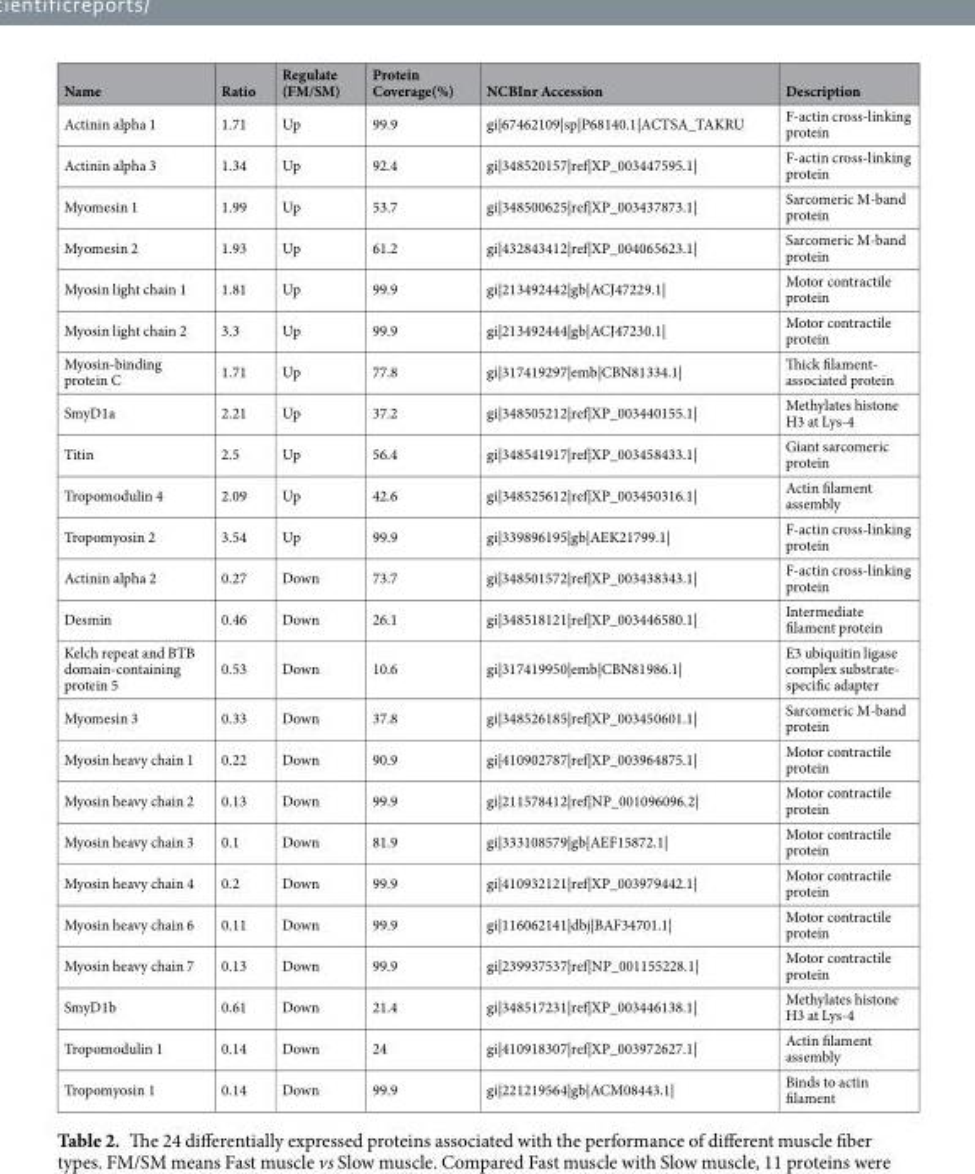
<table><thead><tr><td>Name</td><td>Ratio</td><td>Regulate (FM/SM)</td><td>Protein Coverage(%)</td><td>NCBInr Accession</td><td>Description</td></tr></thead><tbody><tr><td>Actinin alpha 1</td><td>1.71</td><td>Up</td><td>99.9</td><td>gi|67462109|sp|P68140.1|ACTSA_TAKRU</td><td>F-actin cross-linking protein</td></tr><tr><td>Actinin alpha 3</td><td>1.34</td><td>Up</td><td>92.4</td><td>gi|348520157|ref|XP_003447595.1|</td><td>F-actin cross-linking protein</td></tr><tr><td>Myomesin 1</td><td>1.99</td><td>Up</td><td>53.7</td><td>gi|348500625|ref|XP_003437873.1|</td><td>Sarcomeric M-band protein</td></tr><tr><td>Myomesin 2</td><td>1.93</td><td>Up</td><td>61.2</td><td>gi|432843412|ref|XP_004065623.1|</td><td>Sarcomeric M-band protein</td></tr><tr><td>Myosin light chain 1</td><td>1.81</td><td>Up</td><td>99.9</td><td>gi|213492442|gb|ACJ47229.1|</td><td>Motor contractile protein</td></tr><tr><td>Myosin light chain 2</td><td>3.3</td><td>Up</td><td>99.9</td><td>gi|213492444|gb|ACJ47230.1|</td><td>Motor contractile protein</td></tr><tr><td>Myosin-binding protein C</td><td>1.71</td><td>Up</td><td>77.8</td><td>gi|317419297|emb|CBN81334.1|</td><td>Thick filament- associated protein</td></tr><tr><td>SmyD1a</td><td>2.21</td><td>Up</td><td>37.2</td><td>gi|348505212|ref|XP_003440155.1|</td><td>Methylates histone H3 at Lys-4</td></tr><tr><td>Titin</td><td>2.5</td><td>Up</td><td>56.4</td><td>gi|348541917|ref|XP_003458433.1|</td><td>Giant sarcomeric protein</td></tr><tr><td>Tropomodulin 4</td><td>2.09</td><td>Up</td><td>42.6</td><td>gi|348525612|ref|XP_003450316.1|</td><td>Actin filament assembly</td></tr><tr><td>Tropomyosin 2</td><td>3.54</td><td>Up</td><td>99.9</td><td>gi|339896195|gb|AEK21799.1|</td><td>F-actin cross-linking protein</td></tr><tr><td>Actinin alpha 2</td><td>0.27</td><td>Down</td><td>73.7</td><td>gi|348501572|ref|XP_003438343.1|</td><td>F-actin cross-linking protein</td></tr><tr><td>Desmin</td><td>0.46</td><td>Down</td><td>26.1</td><td>gi|348518121|ref|XP_003446580.1|</td><td>Intermediate filament protein</td></tr><tr><td>Kelch repeat and BTB domain-containing protein 5</td><td>0.53</td><td>Down</td><td>10.6</td><td>gi|317419950|emb|CBN81986.1|</td><td>E3 ubiquitin ligase complex substrate- specific adapter</td></tr><tr><td>Myomesin 3</td><td>0.33</td><td>Down</td><td>37.8</td><td>gi|348526185|ref|XP_003450601.1|</td><td>Sarcomeric M-band protein</td></tr><tr><td>Myosin heavy chain 1</td><td>0.22</td><td>Down</td><td>90.9</td><td>gi|410902787|ref|XP_003964875.1|</td><td>Motor contractile protein</td></tr><tr><td>Myosin heavy chain 2</td><td>0.13</td><td>Down</td><td>99.9</td><td>gi|211578412|ref|NP_001096096.2|</td><td>Motor contractile protein</td></tr><tr><td>Myosin heavy chain 3</td><td>0.1</td><td>Down</td><td>81.9</td><td>gi|333108579|gb|AEF15872.1|</td><td>Motor contractile protein</td></tr><tr><td>Myosin heavy chain 4</td><td>0.2</td><td>Down</td><td>99.9</td><td>gi|410932121|ref|XP_003979442.1|</td><td>Motor contractile protein</td></tr><tr><td>Myosin heavy chain 6</td><td>0.11</td><td>Down</td><td>99.9</td><td>gi|116062141|dbj|BAF34701.1|</td><td>Motor contractile protein</td></tr><tr><td>Myosin heavy chain 7</td><td>0.13</td><td>Down</td><td>99.9</td><td>gi|239937537|ref|NP_001155228.1|</td><td>Motor contractile protein</td></tr><tr><td>SmyD1b</td><td>0.61</td><td>Down</td><td>21.4</td><td>gi|348517231|ref|XP_003446138.1|</td><td>Methylates histone H3 at Lys-4</td></tr><tr><td>Tropomodulin 1</td><td>0.14</td><td>Down</td><td>24</td><td>gi|410918307|ref|XP_003972627.1|</td><td>Actin filament assembly</td></tr><tr><td>Tropomyosin 1</td><td>0.14</td><td>Down</td><td>99.9</td><td>gi|221219564|gb|ACM08443.1|</td><td>Binds to actin filament</td></tr></tbody></table>